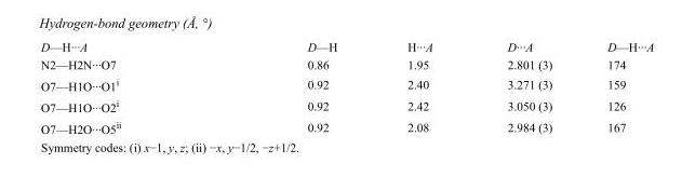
<table><tbody><tr><td>D—H···A</td><td>D—H</td><td>H···A</td><td>D···A</td><td>D—H···A</td></tr><tr><td>N2—H2N···O7</td><td>0.86</td><td>1.95</td><td>2.801 (3)</td><td>174</td></tr><tr><td>O7—H1O···O1<sup>i</sup></td><td>0.92</td><td>2.40</td><td>3.271 (3)</td><td>159</td></tr><tr><td>O7—H1O···O2<sup>i</sup></td><td>0.92</td><td>2.42</td><td>3.050 (3)</td><td>126</td></tr><tr><td>O7—H2O···O5<sup>ii</sup></td><td>0.92</td><td>2.08</td><td>2.984 (3)</td><td>167</td></tr></tbody></table>